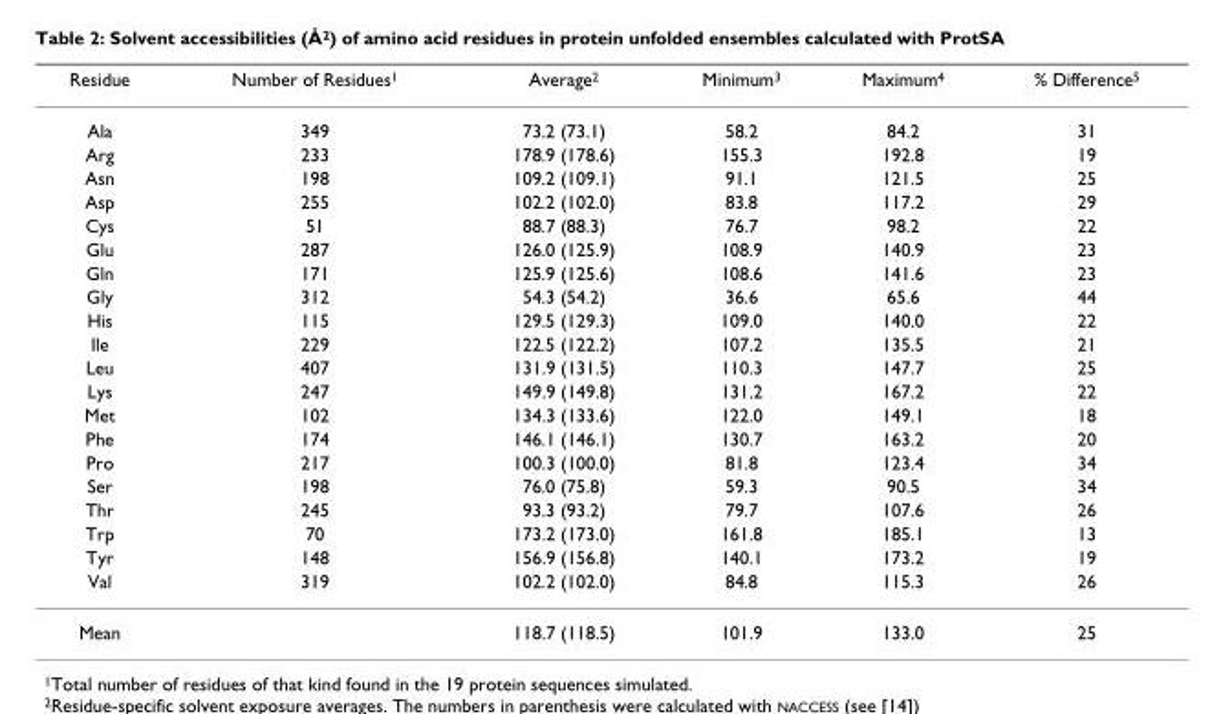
<table><thead><tr><td>Residue</td><td>Number of Residues<sup>1</sup></td><td>Average<sup>2</sup></td><td>Minimum<sup>3</sup></td><td>Maximum<sup>4</sup></td><td>% Difference<sup>5</sup></td></tr></thead><tbody><tr><td>Ala</td><td>349</td><td>73.2 (73.1)</td><td>58.2</td><td>84.2</td><td>31</td></tr><tr><td>Arg</td><td>233</td><td>178.9 (178.6)</td><td>155.3</td><td>192.8</td><td>19</td></tr><tr><td>Asn</td><td>198</td><td>109.2 (109.1)</td><td>91.1</td><td>121.5</td><td>25</td></tr><tr><td>Asp</td><td>255</td><td>102.2 (102.0)</td><td>83.8</td><td>117.2</td><td>29</td></tr><tr><td>Cys</td><td>51</td><td>88.7 (88.3)</td><td>76.7</td><td>98.2</td><td>22</td></tr><tr><td>Glu</td><td>287</td><td>126.0 (125.9)</td><td>108.9</td><td>140.9</td><td>23</td></tr><tr><td>Gln</td><td>171</td><td>125.9 (125.6)</td><td>108.6</td><td>141.6</td><td>23</td></tr><tr><td>Gly</td><td>312</td><td>54.3 (54.2)</td><td>36.6</td><td>65.6</td><td>44</td></tr><tr><td>His</td><td>115</td><td>129.5 (129.3)</td><td>109.0</td><td>140.0</td><td>22</td></tr><tr><td>Ile</td><td>229</td><td>122.5 (122.2)</td><td>107.2</td><td>135.5</td><td>21</td></tr><tr><td>Leu</td><td>407</td><td>131.9 (131.5)</td><td>110.3</td><td>147.7</td><td>25</td></tr><tr><td>Lys</td><td>247</td><td>149.9 (149.8)</td><td>131.2</td><td>167.2</td><td>22</td></tr><tr><td>Met</td><td>102</td><td>134.3 (133.6)</td><td>122.0</td><td>149.1</td><td>18</td></tr><tr><td>Phe</td><td>174</td><td>146.1 (146.1)</td><td>130.7</td><td>163.2</td><td>20</td></tr><tr><td>Pro</td><td>217</td><td>100.3 (100.0)</td><td>81.8</td><td>123.4</td><td>34</td></tr><tr><td>Ser</td><td>198</td><td>76.0 (75.8)</td><td>59.3</td><td>90.5</td><td>34</td></tr><tr><td>Thr</td><td>245</td><td>93.3 (93.2)</td><td>79.7</td><td>107.6</td><td>26</td></tr><tr><td>Trp</td><td>70</td><td>173.2 (173.0)</td><td>161.8</td><td>185.1</td><td>13</td></tr><tr><td>Tyr</td><td>148</td><td>156.9 (156.8)</td><td>140.1</td><td>173.2</td><td>19</td></tr><tr><td>Val</td><td>319</td><td>102.2 (102.0)</td><td>84.8</td><td>115.3</td><td>26</td></tr><tr><td>Mean</td><td></td><td>118.7 (118.5)</td><td>101.9</td><td>133.0</td><td>25</td></tr></tbody></table>